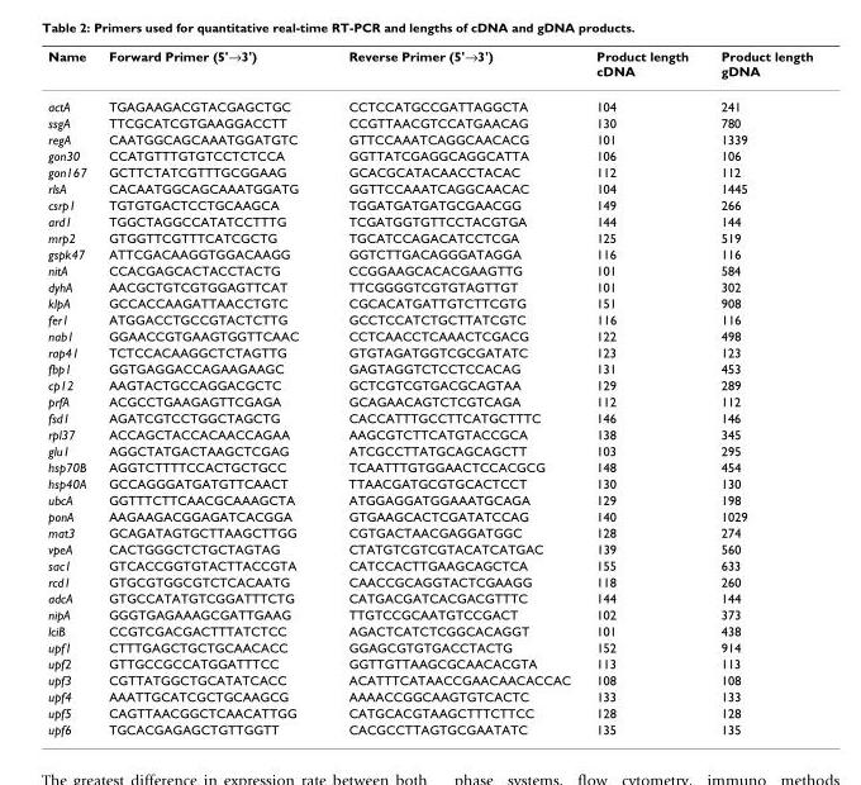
<table><thead><tr><td>Name</td><td>Forward Primer (5&#x27;→3&#x27;)</td><td>Reverse Primer (5&#x27;→3&#x27;)</td><td>Product length cDNA</td><td>Product length gDNA</td></tr></thead><tbody><tr><td>actA</td><td>TGAGAAGACGTACGAGCTGC</td><td>CCTCCATGCCGATTAGGCTA</td><td>104</td><td>241</td></tr><tr><td>ssgA</td><td>TTCGCATCGTGAAGGACCTT</td><td>CCGTTAACGTCCATGAACAG</td><td>130</td><td>780</td></tr><tr><td>regA</td><td>CAATGGCAGCAAATGGATGTC</td><td>GTTCCAAATCAGGCAACACG</td><td>101</td><td>1339</td></tr><tr><td>gon30</td><td>CCATGTTTGTGTCCTCTCCA</td><td>GGTTATCGAGGCAGGCATTA</td><td>106</td><td>106</td></tr><tr><td>gon167</td><td>GCTTCTATCGTTTGCGGAAG</td><td>GCACGCATACAACCTACAC</td><td>112</td><td>112</td></tr><tr><td>rlsA</td><td>CACAATGGCAGCAAATGGATG</td><td>GGTTCCAAATCAGGCAACAC</td><td>104</td><td>1445</td></tr><tr><td>csrp1</td><td>TGTGTGACTCCTGCAAGCA</td><td>TGGATGATGATGCGAACGG</td><td>149</td><td>266</td></tr><tr><td>ard1</td><td>TGGCTAGGCCATATCCTTTG</td><td>TCGATGGTGTTCCTACGTGA</td><td>144</td><td>144</td></tr><tr><td>mrp2</td><td>GTGGTTCGTTTCATCGCTG</td><td>TGCATCCAGACATCCTCGA</td><td>125</td><td>519</td></tr><tr><td>gspk47</td><td>ATTCGACAAGGTGGACAAGG</td><td>GGTCTTGACAGGGATAGGA</td><td>116</td><td>116</td></tr><tr><td>nitA</td><td>CCACGAGCACTACCTACTG</td><td>CCGGAAGCACACGAAGTTG</td><td>101</td><td>584</td></tr><tr><td>dyhA</td><td>AACGCTGTCGTGGAGTTCAT</td><td>TTCGGGGTCGTGTAGTTGT</td><td>101</td><td>302</td></tr><tr><td>klpA</td><td>GCCACCAAGATTAACCTGTC</td><td>CGCACATGATTGTCTTCGTG</td><td>151</td><td>908</td></tr><tr><td>fer1</td><td>ATGGACCTGCCGTACTCTTG</td><td>GCCTCCATCTGCTTATCGTC</td><td>116</td><td>116</td></tr><tr><td>nab1</td><td>GGAACCGTGAAGTGGTTCAAC</td><td>CCTCAACCTCAAACTCGACG</td><td>122</td><td>498</td></tr><tr><td>rap41</td><td>TCTCCACAAGGCTCTAGTTG</td><td>GTGTAGATGGTCGCGATATC</td><td>123</td><td>123</td></tr><tr><td>fbp1</td><td>GGTGAGGACCAGAAGAAGC</td><td>GAGTAGGTCTCCTCCACAG</td><td>131</td><td>453</td></tr><tr><td>cp12</td><td>AAGTACTGCCAGGACGCTC</td><td>GCTCGTCGTGACGCAGTAA</td><td>129</td><td>289</td></tr><tr><td>prfA</td><td>ACGCCTGAAGAGTTCGAGA</td><td>GCAGAACAGTCTCGTCAGA</td><td>112</td><td>112</td></tr><tr><td>fsd1</td><td>AGATCGTCCTGGCTAGCTG</td><td>CACCATTTGCCTTCATGCTTTC</td><td>146</td><td>146</td></tr><tr><td>rpl37</td><td>ACCAGCTACCACAACCAGAA</td><td>AAGCGTCTTCATGTACCGCA</td><td>138</td><td>345</td></tr><tr><td>glu1</td><td>AGGCTATGACTAAGCTCGAG</td><td>ATCGCCTTATGCAGCAGCTT</td><td>103</td><td>295</td></tr><tr><td>hsp70B</td><td>AGGTCTTTTCCACTGCTGCC</td><td>TCAATTTGTGGAACTCCACGCG</td><td>148</td><td>454</td></tr><tr><td>hsp40A</td><td>GCCAGGGATGATGTTCAACT</td><td>TTAACGATGCGTGCACTCCT</td><td>130</td><td>130</td></tr><tr><td>ubcA</td><td>GGTTTCTTCAACGCAAAGCTA</td><td>ATGGAGGATGGAAATGCAGA</td><td>129</td><td>198</td></tr><tr><td>ponA</td><td>AAGAAGACGGAGATCACGGA</td><td>GTGAAGCACTCGATATCCAG</td><td>140</td><td>1029</td></tr><tr><td>mat3</td><td>GCAGATAGTGCTTAAGCTTGG</td><td>CGTGACTAACGAGGATGGC</td><td>128</td><td>274</td></tr><tr><td>vpeA</td><td>CACTGGGCTCTGCTAGTAG</td><td>CTATGTCGTCGTACATCATGAC</td><td>139</td><td>560</td></tr><tr><td>sac1</td><td>GTCACCGGTGTACTTACCGTA</td><td>CATCCACTTGAAGCAGCTCA</td><td>155</td><td>633</td></tr><tr><td>rcd1</td><td>GTGCGTGGCGTCTCACAATG</td><td>CAACCGCAGGTACTCGAAGG</td><td>118</td><td>260</td></tr><tr><td>adcA</td><td>GTGCCATATGTCGGATTTCTG</td><td>CATGACGATCACGACGTTTC</td><td>144</td><td>144</td></tr><tr><td>nipA</td><td>GGGTGAGAAAGCGATTGAAG</td><td>TTGTCCGCAATGTCCGACT</td><td>102</td><td>373</td></tr><tr><td>lciB</td><td>CCGTCGACGACTTTATCTCC</td><td>AGACTCATCTCGGCACAGGT</td><td>101</td><td>438</td></tr><tr><td>upf1</td><td>CTTTGAGCTGCTGCAACACC</td><td>GGAGCGTGTGACCTACTG</td><td>152</td><td>914</td></tr><tr><td>upf2</td><td>GTTGCCGCCATGGATTTCC</td><td>GGTTGTTAAGCGCAACACGTA</td><td>113</td><td>113</td></tr><tr><td>upf3</td><td>CGTTATGGCTGCATATCACC</td><td>ACATTTCATAACCGAACAACACCAC</td><td>108</td><td>108</td></tr><tr><td>upf4</td><td>AAATTGCATCGCTGCAAGCG</td><td>AAAACCGGCAAGTGTCACTC</td><td>133</td><td>133</td></tr><tr><td>upf5</td><td>CAGTTAACGGCTCAACATTGG</td><td>CATGCACGTAAGCTTTCTTCC</td><td>128</td><td>128</td></tr><tr><td>upf6</td><td>TGCACGAGAGCTGTTGGTT</td><td>CACGCCTTAGTGCGAATATC</td><td>135</td><td>135</td></tr></tbody></table>